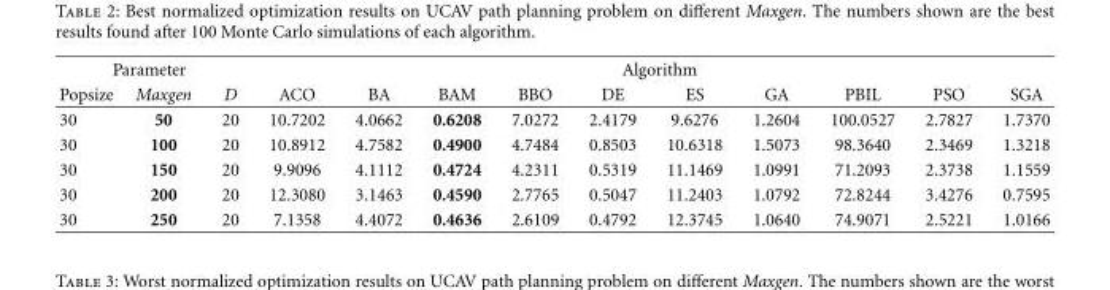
<table><thead><tr><td colspan="3">Parameter</td><td colspan="10">Algorithm</td></tr><tr><td>Popsize</td><td>Maxgen</td><td>D</td><td>ACO</td><td>BA</td><td>BAM</td><td>BBO</td><td>DE</td><td>ES</td><td>GA</td><td>PBIL</td><td>PSO</td><td>SGA</td></tr></thead><tbody><tr><td>30</td><td>50</td><td>20</td><td>10.7202</td><td>4.0662</td><td>0.6208</td><td>7.0272</td><td>2.4179</td><td>9.6276</td><td>1.2604</td><td>100.0527</td><td>2.7827</td><td>1.7370</td></tr><tr><td>30</td><td>100</td><td>20</td><td>10.8912</td><td>4.7582</td><td>0.4900</td><td>4.7484</td><td>0.8503</td><td>10.6318</td><td>1.5073</td><td>98.3640</td><td>2.3469</td><td>1.3218</td></tr><tr><td>30</td><td>150</td><td>20</td><td>9.9096</td><td>4.1112</td><td>0.4724</td><td>4.2311</td><td>0.5319</td><td>11.1469</td><td>1.0991</td><td>71.2093</td><td>2.3738</td><td>1.1559</td></tr><tr><td>30</td><td>200</td><td>20</td><td>12.3080</td><td>3.1463</td><td>0.4590</td><td>2.7765</td><td>0.5047</td><td>11.2403</td><td>1.0792</td><td>72.8244</td><td>3.4276</td><td>0.7595</td></tr><tr><td>30</td><td>250</td><td>20</td><td>7.1358</td><td>4.4072</td><td>0.4636</td><td>2.6109</td><td>0.4792</td><td>12.3745</td><td>1.0640</td><td>74.9071</td><td>2.5221</td><td>1.0166</td></tr></tbody></table>